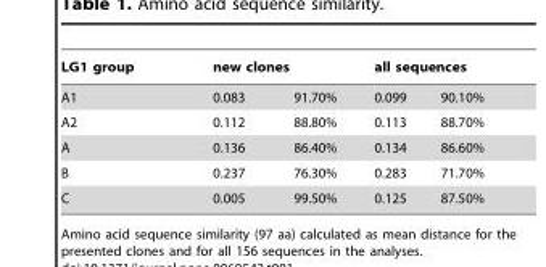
<table><thead><tr><td rowspan="2">LG1 group A1</td><td colspan="2">new clones</td><td colspan="2">all sequences</td></tr><tr><td>0.083</td><td>91.70%</td><td>0.099</td><td>90.10%</td></tr></thead><tbody><tr><td>A2</td><td>0.112</td><td>88.80%</td><td>0.113</td><td>88.70%</td></tr><tr><td>A</td><td>0.136</td><td>86.40%</td><td>0.134</td><td>86.60%</td></tr><tr><td>B</td><td>0.237</td><td>76.30%</td><td>0.283</td><td>71.70%</td></tr><tr><td>C</td><td>0.005</td><td>99.50%</td><td>0.125</td><td>87.50%</td></tr></tbody></table>